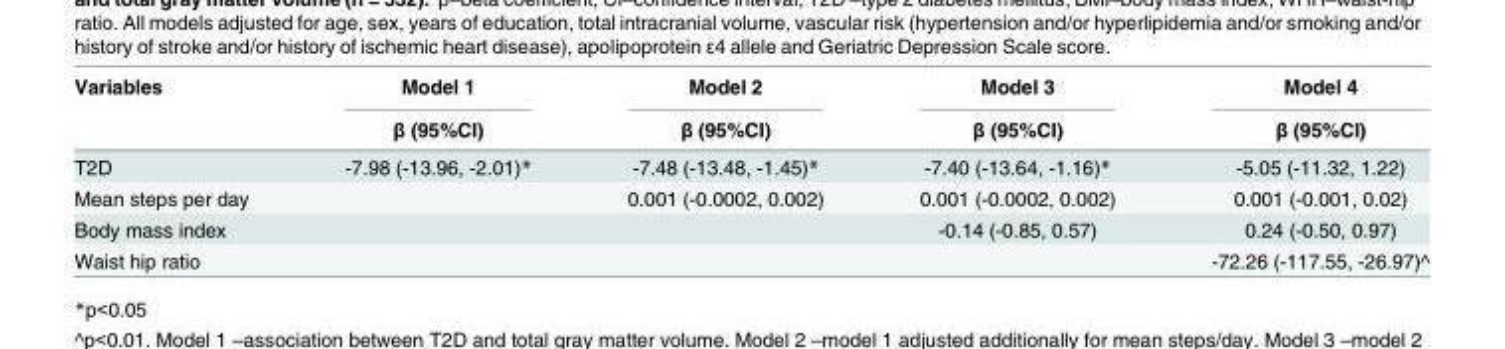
<table><thead><tr><td rowspan="2">Variables</td><td rowspan="2">Model 1 β (95%CI)</td><td rowspan="2">Model 2 β (95%CI)</td><td rowspan="2">Model 3 β (95%CI)</td><td rowspan="2">Model 4 β (95%CI)</td></tr><tr></tr></thead><tbody><tr><td>T2D</td><td>-7.98 (-13.96, -2.01)*</td><td>-7.48 (-13.48, -1.45)*</td><td>-7.40 (-13.64, -1.16)*</td><td>-5.05 (-11.32, 1.22)</td></tr><tr><td>Mean steps per day</td><td></td><td>0.001 (-0.0002, 0.002)</td><td>0.001 (-0.0002, 0.002)</td><td>0.001 (-0.001, 0.02)</td></tr><tr><td>Body mass index</td><td></td><td></td><td>-0.14 (-0.85, 0.57)</td><td>0.24 (-0.50, 0.97)</td></tr><tr><td>Waist hip ratio</td><td></td><td></td><td></td><td>-72.26 (-117.55, -26.97)^</td></tr></tbody></table>